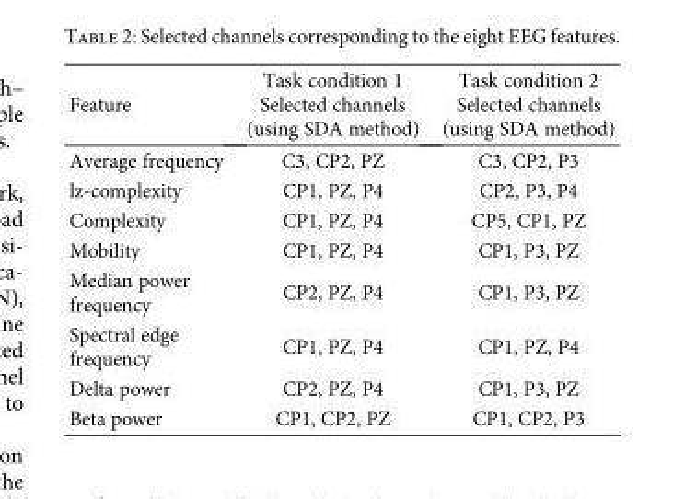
<table><thead><tr><td rowspan="2">Feature</td><td rowspan="2">Task condition 1 Selected channels (using SDA method)</td><td rowspan="2">Task condition 2 Selected channels (using SDA method)</td></tr><tr></tr></thead><tbody><tr><td>Average frequency</td><td>C3, CP2, PZ</td><td>C3, CP2, P3</td></tr><tr><td>lz-complexity</td><td>CP1, PZ, P4</td><td>CP2, P3, P4</td></tr><tr><td>Complexity</td><td>CP1, PZ, P4</td><td>CP5, CP1, PZ</td></tr><tr><td>Mobility</td><td>CP1, PZ, P4</td><td>CP1, P3, PZ</td></tr><tr><td>Median power frequency</td><td>CP2, PZ, P4</td><td>CP1, P3, PZ</td></tr><tr><td>Spectral edge frequency</td><td>CP1, PZ, P4</td><td>CP1, PZ, P4</td></tr><tr><td>Delta power</td><td>CP2, PZ, P4</td><td>CP1, P3, PZ</td></tr><tr><td>Beta power</td><td>CP1, CP2, PZ</td><td>CP1, CP2, P3</td></tr></tbody></table>